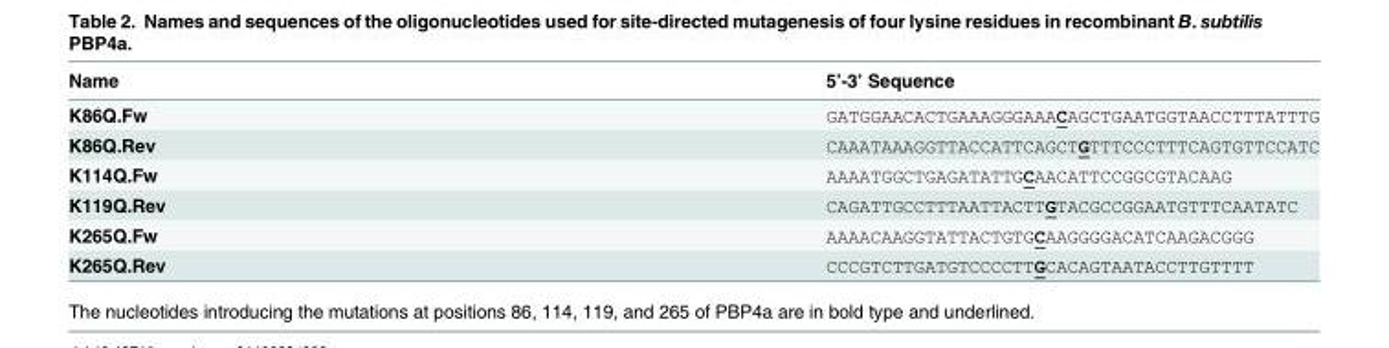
<table><thead><tr><td>Name</td><td>5’-3’ Sequence</td></tr></thead><tbody><tr><td>K86Q.Fw</td><td>GATGGAACACTGAAAGGGAAACAGCTGAATGGTAACCTTTATTTG</td></tr><tr><td>K86Q.Rev</td><td>CAAATAAAGGTTACCATTCAGCTGTTTCCCTTTCAGTGTTCCATC</td></tr><tr><td>K114Q.Fw</td><td>AAAATGGCTGAGATATTGCAACATTCCGGCGTACAAG</td></tr><tr><td>K119Q.Rev</td><td>CAGATTGCCTTTAATTACTTGTACGCCGGAATGTTTCAATATC</td></tr><tr><td>K265Q.Fw</td><td>AAAACAAGGTATTACTGTGCAAGGGGACATCAAGACGGG</td></tr><tr><td>K265Q.Rev</td><td>CCCGTCTTGATGTCCCCTTGCACAGTAATACCTTGTTTT</td></tr></tbody></table>